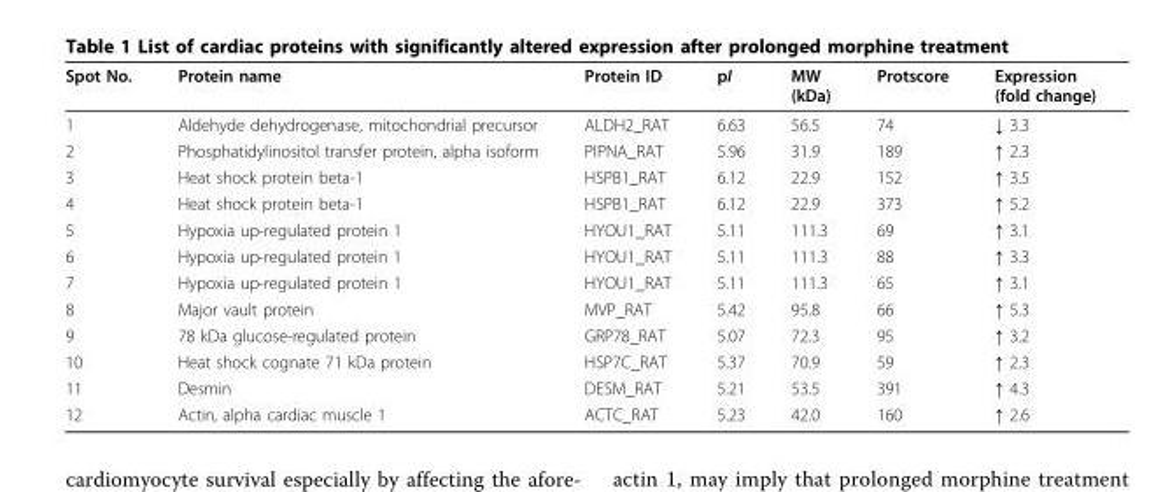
<table><thead><tr><td>Spot No.</td><td>Protein name</td><td>Protein ID</td><td>pI</td><td>MW (kDa)</td><td>Protscore</td><td>Expression (fold change)</td></tr></thead><tbody><tr><td>1</td><td>Aldehyde dehydrogenase, mitochondrial precursor</td><td>ALDH2_RAT</td><td>6.63</td><td>56.5</td><td>74</td><td>↓ 3.3</td></tr><tr><td>2</td><td>Phosphatidylinositol transfer protein, alpha isoform</td><td>PIPNA_RAT</td><td>5.96</td><td>31.9</td><td>189</td><td>↑ 2.3</td></tr><tr><td>3</td><td>Heat shock protein beta-1</td><td>HSPB1_RAT</td><td>6.12</td><td>22.9</td><td>152</td><td>↑ 3.5</td></tr><tr><td>4</td><td>Heat shock protein beta-1</td><td>HSPB1_RAT</td><td>6.12</td><td>22.9</td><td>373</td><td>↑ 5.2</td></tr><tr><td>5</td><td>Hypoxia up-regulated protein 1</td><td>HYOU1_RAT</td><td>5.11</td><td>111.3</td><td>69</td><td>↑ 3.1</td></tr><tr><td>6</td><td>Hypoxia up-regulated protein 1</td><td>HYOU1_RAT</td><td>5.11</td><td>111.3</td><td>88</td><td>↑ 3.3</td></tr><tr><td>7</td><td>Hypoxia up-regulated protein 1</td><td>HYOU1_RAT</td><td>5.11</td><td>111.3</td><td>65</td><td>↑ 3.1</td></tr><tr><td>8</td><td>Major vault protein</td><td>MVP_RAT</td><td>5.42</td><td>95.8</td><td>66</td><td>↑ 5.3</td></tr><tr><td>9</td><td>78 kDa glucose-regulated protein</td><td>GRP78_RAT</td><td>5.07</td><td>72.3</td><td>95</td><td>↑ 3.2</td></tr><tr><td>10</td><td>Heat shock cognate 71 kDa protein</td><td>HSP7C_RAT</td><td>5.37</td><td>70.9</td><td>59</td><td>↑ 2.3</td></tr><tr><td>11</td><td>Desmin</td><td>DESM_RAT</td><td>5.21</td><td>53.5</td><td>391</td><td>↑ 4.3</td></tr><tr><td>12</td><td>Actin, alpha cardiac muscle 1</td><td>ACTC_RAT</td><td>5.23</td><td>42.0</td><td>160</td><td>↑ 2.6</td></tr></tbody></table>